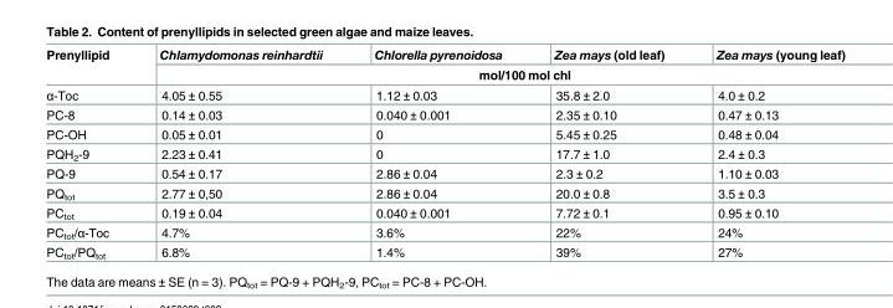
<table><thead><tr><td rowspan="2">Prenyllipid</td><td>Chlamydomonas reinhardtii</td><td>Chlorella pyrenoidosa</td><td>Zea mays (old leaf)</td><td>Zea mays (young leaf)</td></tr><tr><td colspan="4">mol/100 mol chl</td></tr></thead><tbody><tr><td>α-Toc</td><td>4.05 ± 0.55</td><td>1.12 ± 0.03</td><td>35.8 ± 2.0</td><td>4.0 ± 0.2</td></tr><tr><td>PC-8</td><td>0.14 ± 0.03</td><td>0.040 ± 0.001</td><td>2.35 ± 0.10</td><td>0.47 ± 0.13</td></tr><tr><td>PC-OH</td><td>0.05 ± 0.01</td><td>0</td><td>5.45 ± 0.25</td><td>0.48 ± 0.04</td></tr><tr><td>PQH<sub>2</sub>-9</td><td>2.23 ± 0.41</td><td>0</td><td>17.7 ± 1.0</td><td>2.4 ± 0.3</td></tr><tr><td>PQ-9</td><td>0.54 ± 0.17</td><td>2.86 ± 0.04</td><td>2.3 ± 0.2</td><td>1.10 ± 0.03</td></tr><tr><td>PQ<sub>tot</sub></td><td>2.77 ± 0,50</td><td>2.86 ± 0.04</td><td>20.0 ± 0.8</td><td>3.5 ± 0.3</td></tr><tr><td>PC<sub>tot</sub></td><td>0.19 ± 0.04</td><td>0.040 ± 0.001</td><td>7.72 ± 0.1</td><td>0.95 ± 0.10</td></tr><tr><td>PC<sub>tot</sub>/α-Toc</td><td>4.7%</td><td>3.6%</td><td>22%</td><td>24%</td></tr><tr><td>PC<sub>tot</sub>/PQ<sub>tot</sub></td><td>6.8%</td><td>1.4%</td><td>39%</td><td>27%</td></tr></tbody></table>